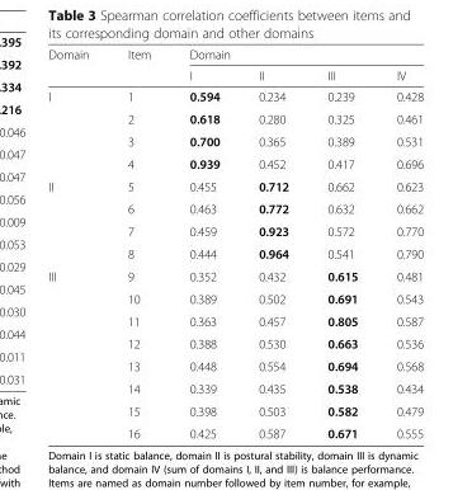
<table><thead><tr><td rowspan="2">Domain</td><td rowspan="2">Item</td><td colspan="4">Domain</td></tr><tr><td>I</td><td>II</td><td>III</td><td>IV</td></tr></thead><tbody><tr><td rowspan="4">I</td><td>1</td><td>0.594</td><td>0.234</td><td>0.239</td><td>0.428</td></tr><tr><td>2</td><td>0.618</td><td>0.280</td><td>0.325</td><td>0.461</td></tr><tr><td>3</td><td>0.700</td><td>0.365</td><td>0.389</td><td>0.531</td></tr><tr><td>4</td><td>0.939</td><td>0.452</td><td>0.417</td><td>0.696</td></tr><tr><td rowspan="4">II</td><td>5</td><td>0.455</td><td>0.712</td><td>0.662</td><td>0.623</td></tr><tr><td>6</td><td>0.463</td><td>0.772</td><td>0.632</td><td>0.662</td></tr><tr><td>7</td><td>0.459</td><td>0.923</td><td>0.572</td><td>0.770</td></tr><tr><td>8</td><td>0.444</td><td>0.964</td><td>0.541</td><td>0.790</td></tr><tr><td rowspan="8">III</td><td>9</td><td>0.352</td><td>0.432</td><td>0.615</td><td>0.481</td></tr><tr><td>10</td><td>0.389</td><td>0.502</td><td>0.691</td><td>0.543</td></tr><tr><td>11</td><td>0.363</td><td>0.457</td><td>0.805</td><td>0.587</td></tr><tr><td>12</td><td>0.388</td><td>0.530</td><td>0.663</td><td>0.536</td></tr><tr><td>13</td><td>0.448</td><td>0.554</td><td>0.694</td><td>0.568</td></tr><tr><td>14</td><td>0.339</td><td>0.435</td><td>0.538</td><td>0.434</td></tr><tr><td>15</td><td>0.398</td><td>0.503</td><td>0.582</td><td>0.479</td></tr><tr><td>16</td><td>0.425</td><td>0.587</td><td>0.671</td><td>0.555</td></tr></tbody></table>